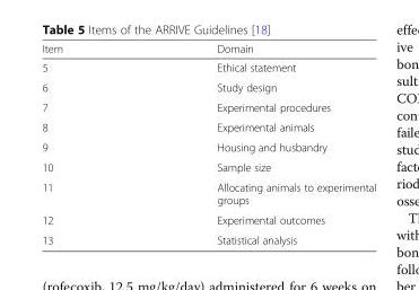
<table><thead><tr><td>Item</td><td>Domain</td></tr></thead><tbody><tr><td>5</td><td>Ethical statement</td></tr><tr><td>6</td><td>Study design</td></tr><tr><td>7</td><td>Experimental procedures</td></tr><tr><td>8</td><td>Experimental animals</td></tr><tr><td>9</td><td>Housing and husbandry</td></tr><tr><td>10</td><td>Sample size</td></tr><tr><td>11</td><td>Allocating animals to experimental groups</td></tr><tr><td>12</td><td>Experimental outcomes</td></tr><tr><td>13</td><td>Statistical analysis</td></tr></tbody></table>